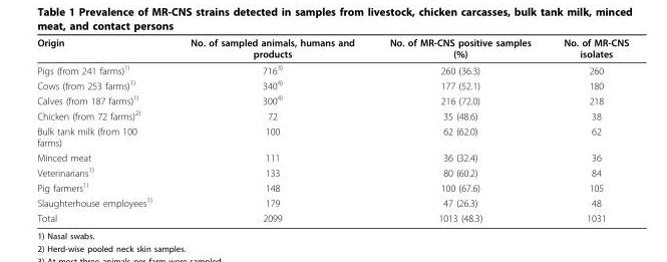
<table><thead><tr><td>Origin</td><td>No. of sampled animals, humans and products</td><td>No. of MR-CNS positive samples (%)</td><td>No. of MR-CNS isolates</td></tr></thead><tbody><tr><td>Pigs (from 241 farms)<sup>1)</sup></td><td>716<sup>3)</sup></td><td>260 (36.3)</td><td>260</td></tr><tr><td>Cows (from 253 farms)<sup>1)</sup></td><td>340<sup>4)</sup></td><td>177 (52.1)</td><td>180</td></tr><tr><td>Calves (from 187 farms)<sup>1)</sup></td><td>300<sup>4)</sup></td><td>216 (72.0)</td><td>218</td></tr><tr><td>Chicken (from 72 farms)<sup>2)</sup></td><td>72</td><td>35 (48.6)</td><td>38</td></tr><tr><td>Bulk tank milk (from 100 farms)</td><td>100</td><td>62 (62.0)</td><td>62</td></tr><tr><td>Minced meat</td><td>111</td><td>36 (32.4)</td><td>36</td></tr><tr><td>Veterinarians<sup>1)</sup></td><td>133</td><td>80 (60.2)</td><td>84</td></tr><tr><td>Pig farmers<sup>1)</sup></td><td>148</td><td>100 (67.6)</td><td>105</td></tr><tr><td>Slaughterhouse employees<sup>1)</sup></td><td>179</td><td>47 (26.3)</td><td>48</td></tr><tr><td>Total</td><td>2099</td><td>1013 (48.3)</td><td>1031</td></tr></tbody></table>